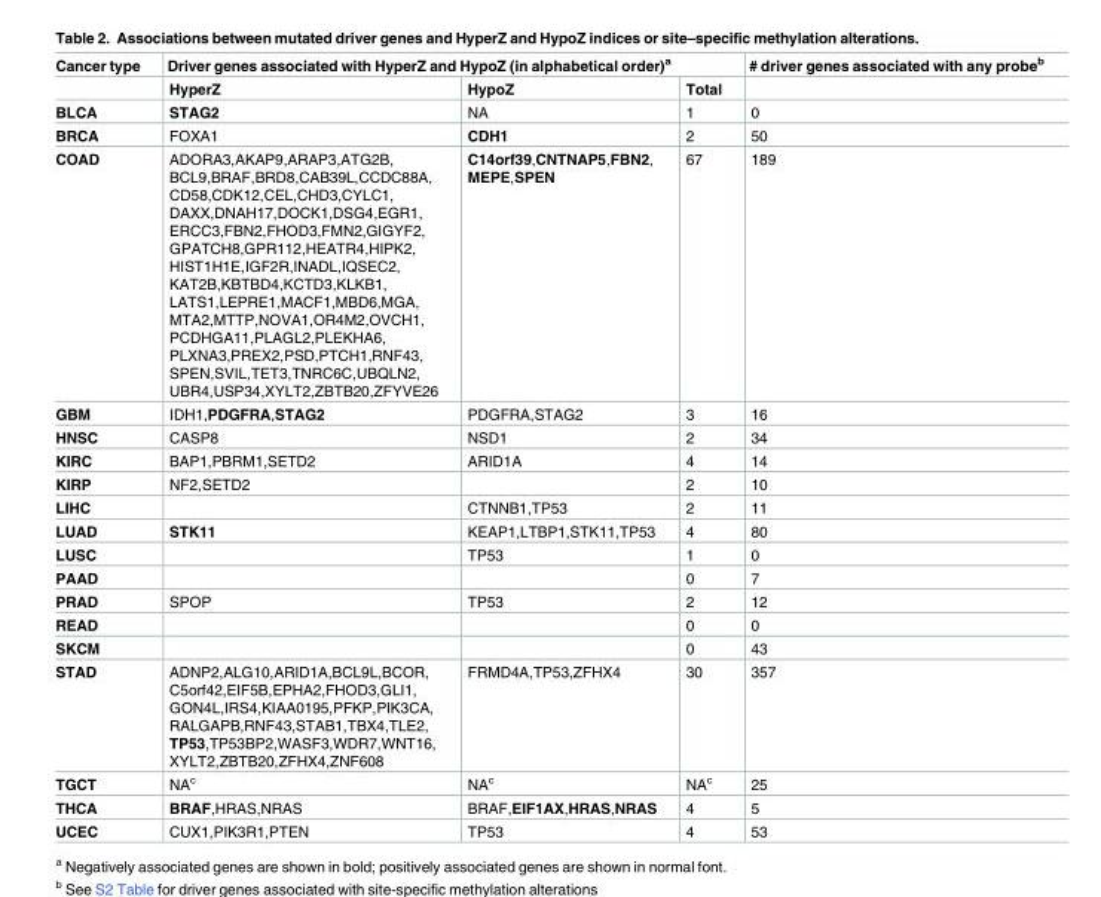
<table><thead><tr><td rowspan="2">Cancer type</td><td colspan="3">Driver genes associated with HyperZ and HypoZ (in alphabetical order)<sup>a</sup></td><td rowspan="2"># driver genes associated with any probe<sup>b</sup></td></tr><tr><td>HyperZ</td><td>HypoZ</td><td>Total</td></tr></thead><tbody><tr><td>BLCA</td><td>STAG2</td><td>NA</td><td>1</td><td>0</td></tr><tr><td>BRCA</td><td>FOXA1</td><td>CDH1</td><td>2</td><td>50</td></tr><tr><td>COAD</td><td>ADORA3,AKAP9,ARAP3,ATG2B, BCL9,BRAF,BRD8,CAB39L,CCDC88A, CD58,CDK12,CEL,CHD3,CYLC1, DAXX,DNAH17,DOCK1,DSG4,EGR1, ERCC3,FBN2,FHOD3,FMN2,GIGYF2, GPATCH8,GPR112,HEATR4,HIPK2, HIST1H1E,IGF2R,INADL,IQSEC2, KAT2B,KBTBD4,KCTD3,KLKB1, LATS1,LEPRE1,MACF1,MBD6,MGA, MTA2,MTTP,NOVA1,OR4M2,OVCH1, PCDHGA11,PLAGL2,PLEKHA6, PLXNA3,PREX2,PSD,PTCH1,RNF43, SPEN,SVIL,TET3,TNRC6C,UBQLN2, UBR4,USP34,XYLT2,ZBTB20,ZFYVE26</td><td>C14orf39,CNTNAP5,FBN2, MEPE,SPEN</td><td>67</td><td>189</td></tr><tr><td>GBM</td><td>IDH1,PDGFRA,STAG2</td><td>PDGFRA,STAG2</td><td>3</td><td>16</td></tr><tr><td>HNSC</td><td>CASP8</td><td>NSD1</td><td>2</td><td>34</td></tr><tr><td>KIRC</td><td>BAP1,PBRM1,SETD2</td><td>ARID1A</td><td>4</td><td>14</td></tr><tr><td>KIRP</td><td>NF2,SETD2</td><td></td><td>2</td><td>10</td></tr><tr><td>LIHC</td><td></td><td>CTNNB1,TP53</td><td>2</td><td>11</td></tr><tr><td>LUAD</td><td>STK11</td><td>KEAP1,LTBP1,STK11,TP53</td><td>4</td><td>80</td></tr><tr><td>LUSC</td><td></td><td>TP53</td><td>1</td><td>0</td></tr><tr><td>PAAD</td><td></td><td></td><td>0</td><td>7</td></tr><tr><td>PRAD</td><td>SPOP</td><td>TP53</td><td>2</td><td>12</td></tr><tr><td>READ</td><td></td><td></td><td>0</td><td>0</td></tr><tr><td>SKCM</td><td></td><td></td><td>0</td><td>43</td></tr><tr><td>STAD</td><td>ADNP2,ALG10,ARID1A,BCL9L,BCOR, C5orf42,EIF5B,EPHA2,FHOD3,GLI1, GON4L,IRS4,KIAA0195,PFKP,PIK3CA, RALGAPB,RNF43,STAB1,TBX4,TLE2, TP53,TP53BP2,WASF3,WDR7,WNT16, XYLT2,ZBTB20,ZFHX4,ZNF608</td><td>FRMD4A,TP53,ZFHX4</td><td>30</td><td>357</td></tr><tr><td>TGCT</td><td>NA<sup>c</sup></td><td>NA<sup>c</sup></td><td>NA<sup>c</sup></td><td>25</td></tr><tr><td>THCA</td><td>BRAF,HRAS,NRAS</td><td>BRAF,EIF1AX,HRAS,NRAS</td><td>4</td><td>5</td></tr><tr><td>UCEC</td><td>CUX1,PIK3R1,PTEN</td><td>TP53</td><td>4</td><td>53</td></tr></tbody></table>